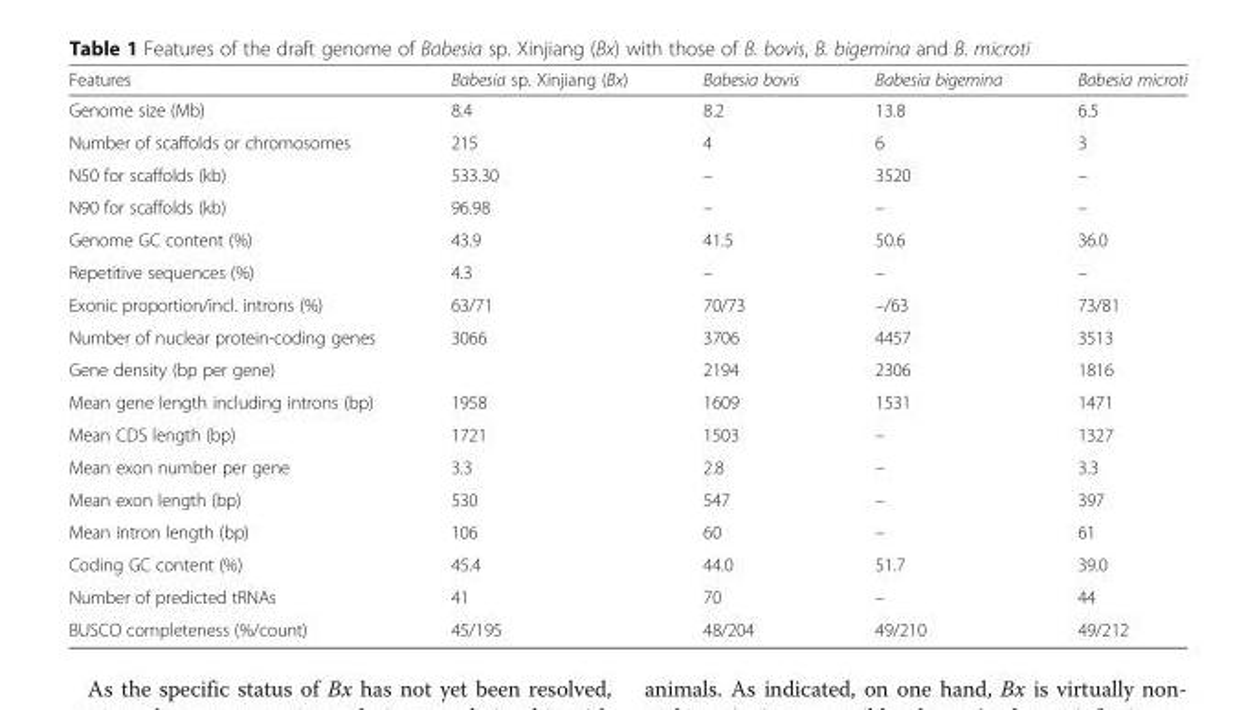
<table><thead><tr><td>Features</td><td>Babesia sp. Xinjiang (Bx)</td><td>Babesia bovis</td><td>Babesia bigemina</td><td>Babesia microti</td></tr></thead><tbody><tr><td>Genome size (Mb)</td><td>8.4</td><td>8.2</td><td>13.8</td><td>6.5</td></tr><tr><td>Number of scaffolds or chromosomes</td><td>215</td><td>4</td><td>6</td><td>3</td></tr><tr><td>N50 for scaffolds (kb)</td><td>533.30</td><td>–</td><td>3520</td><td>–</td></tr><tr><td>N90 for scaffolds (kb)</td><td>96.98</td><td>–</td><td>–</td><td>–</td></tr><tr><td>Genome GC content (%)</td><td>43.9</td><td>41.5</td><td>50.6</td><td>36.0</td></tr><tr><td>Repetitive sequences (%)</td><td>4.3</td><td>–</td><td>–</td><td>–</td></tr><tr><td>Exonic proportion/incl. introns (%)</td><td>63/71</td><td>70/73</td><td>–/63</td><td>73/81</td></tr><tr><td>Number of nuclear protein-coding genes</td><td>3066</td><td>3706</td><td>4457</td><td>3513</td></tr><tr><td>Gene density (bp per gene)</td><td></td><td>2194</td><td>2306</td><td>1816</td></tr><tr><td>Mean gene length including introns (bp)</td><td>1958</td><td>1609</td><td>1531</td><td>1471</td></tr><tr><td>Mean CDS length (bp)</td><td>1721</td><td>1503</td><td>–</td><td>1327</td></tr><tr><td>Mean exon number per gene</td><td>3.3</td><td>2.8</td><td>–</td><td>3.3</td></tr><tr><td>Mean exon length (bp)</td><td>530</td><td>547</td><td>–</td><td>397</td></tr><tr><td>Mean intron length (bp)</td><td>106</td><td>60</td><td>–</td><td>61</td></tr><tr><td>Coding GC content (%)</td><td>45.4</td><td>44.0</td><td>51.7</td><td>39.0</td></tr><tr><td>Number of predicted tRNAs</td><td>41</td><td>70</td><td>–</td><td>44</td></tr><tr><td>BUSCO completeness (%/count)</td><td>45/195</td><td>48/204</td><td>49/210</td><td>49/212</td></tr></tbody></table>